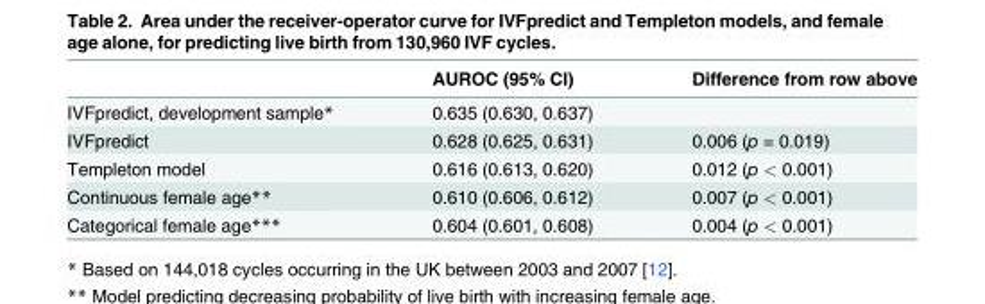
<table><thead><tr><td></td><td>AUROC (95% CI)</td><td>Difference from row above</td></tr></thead><tbody><tr><td>IVFpredict, development sample*</td><td>0.635 (0.630, 0.637)</td><td></td></tr><tr><td>IVFpredict</td><td>0.628 (0.625, 0.631)</td><td>0.006 (p = 0.019)</td></tr><tr><td>Templeton model</td><td>0.616 (0.613, 0.620)</td><td>0.012 (p &lt; 0.001)</td></tr><tr><td>Continuous female age**</td><td>0.610 (0.606, 0.612)</td><td>0.007 (p &lt; 0.001)</td></tr><tr><td>Categorical female age***</td><td>0.604 (0.601, 0.608)</td><td>0.004 (p &lt; 0.001)</td></tr></tbody></table>